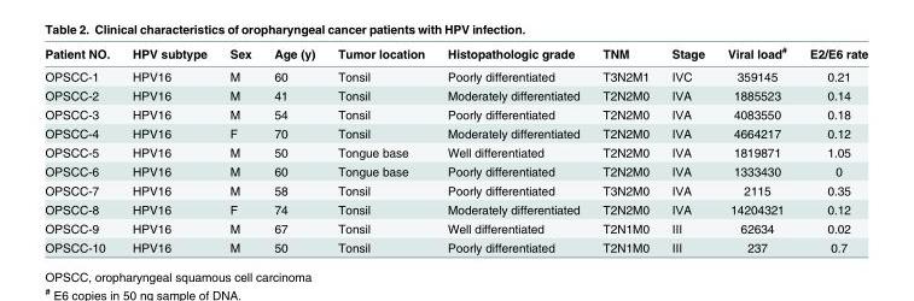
<table><thead><tr><td>Patient NO.</td><td>HPV subtype</td><td>Sex</td><td>Age (y)</td><td>Tumor location</td><td>Histopathologic grade</td><td>TNM</td><td>Stage</td><td>Viral load<sup>#</sup></td><td>E2/E6 rate</td></tr></thead><tbody><tr><td>OPSCC-1</td><td>HPV16</td><td>M</td><td>60</td><td>Tonsil</td><td>Poorly differentiated</td><td>T3N2M1</td><td>ⅣC</td><td>359145</td><td>0.21</td></tr><tr><td>OPSCC-2</td><td>HPV16</td><td>M</td><td>41</td><td>Tonsil</td><td>Moderately differentiated</td><td>T2N2M0</td><td>ⅣA</td><td>1885523</td><td>0.14</td></tr><tr><td>OPSCC-3</td><td>HPV16</td><td>M</td><td>54</td><td>Tonsil</td><td>Poorly differentiated</td><td>T2N2M0</td><td>ⅣA</td><td>4083550</td><td>0.18</td></tr><tr><td>OPSCC-4</td><td>HPV16</td><td>F</td><td>70</td><td>Tonsil</td><td>Moderately differentiated</td><td>T2N2M0</td><td>ⅣA</td><td>4664217</td><td>0.12</td></tr><tr><td>OPSCC-5</td><td>HPV16</td><td>M</td><td>50</td><td>Tongue base</td><td>Well differentiated</td><td>T2N2M0</td><td>ⅣA</td><td>1819871</td><td>1.05</td></tr><tr><td>OPSCC-6</td><td>HPV16</td><td>M</td><td>60</td><td>Tongue base</td><td>Poorly differentiated</td><td>T2N2M0</td><td>ⅣA</td><td>1333430</td><td>0</td></tr><tr><td>OPSCC-7</td><td>HPV16</td><td>M</td><td>58</td><td>Tonsil</td><td>Poorly differentiated</td><td>T3N2M0</td><td>ⅣA</td><td>2115</td><td>0.35</td></tr><tr><td>OPSCC-8</td><td>HPV16</td><td>F</td><td>74</td><td>Tonsil</td><td>Moderately differentiated</td><td>T2N2M0</td><td>ⅣA</td><td>14204321</td><td>0.12</td></tr><tr><td>OPSCC-9</td><td>HPV16</td><td>M</td><td>67</td><td>Tonsil</td><td>Well differentiated</td><td>T2N1M0</td><td>Ⅲ</td><td>62634</td><td>0.02</td></tr><tr><td>OPSCC-10</td><td>HPV16</td><td>M</td><td>50</td><td>Tonsil</td><td>Poorly differentiated</td><td>T2N1M0</td><td>Ⅲ</td><td>237</td><td>0.7</td></tr></tbody></table>